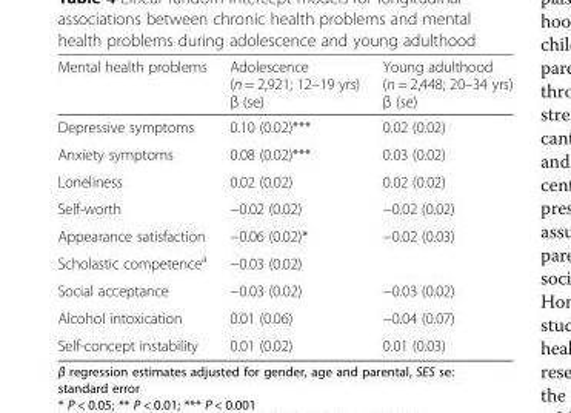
<table><thead><tr><td>Mental health problems</td><td>Adolescence (n = 2,921; 12–19 yrs) β (se)</td><td>Young adulthood (n = 2,448; 20–34 yrs) β (se)</td></tr></thead><tbody><tr><td>Depressive symptoms</td><td>0.10 (0.02)***</td><td>0.02 (0.02)</td></tr><tr><td>Anxiety symptoms</td><td>0.08 (0.02)***</td><td>0.03 (0.02)</td></tr><tr><td>Loneliness</td><td>0.02 (0.02)</td><td>0.02 (0.02)</td></tr><tr><td>Self-worth</td><td>−0.02 (0.02)</td><td>−0.02 (0.02)</td></tr><tr><td>Appearance satisfaction</td><td>−0.06 (0.02)*</td><td>−0.02 (0.03)</td></tr><tr><td>Scholastic competence<sup>a</sup></td><td>−0.03 (0.02)</td><td></td></tr><tr><td>Social acceptance</td><td>−0.03 (0.02)</td><td>−0.03 (0.02)</td></tr><tr><td>Alcohol intoxication</td><td>0.01 (0.06)</td><td>−0.04 (0.07)</td></tr><tr><td>Self-concept instability</td><td>0.01 (0.02)</td><td>0.01 (0.03)</td></tr></tbody></table>